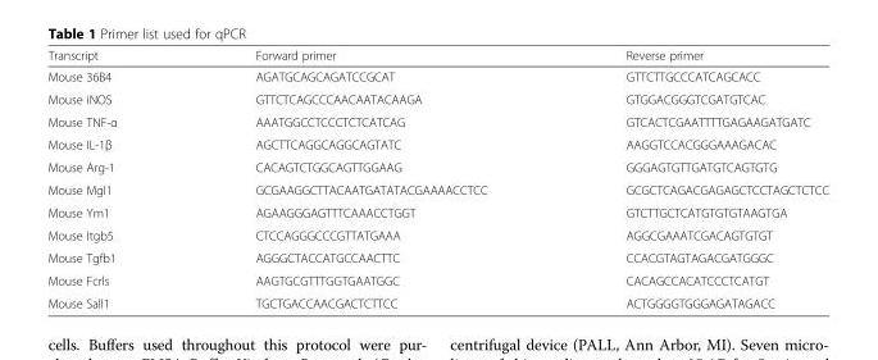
<table><thead><tr><td>Transcript</td><td>Forward primer</td><td>Reverse primer</td></tr></thead><tbody><tr><td>Mouse 36B4</td><td>AGATGCAGCAGATCCGCAT</td><td>GTTCTTGCCCATCAGCACC</td></tr><tr><td>Mouse iNOS</td><td>GTTCTCAGCCCAACAATACAAGA</td><td>GTGGACGGGTCGATGTCAC</td></tr><tr><td>Mouse TNF-α</td><td>AAATGGCCTCCCTCTCATCAG</td><td>GTCACTCGAATTTTGAGAAGATGATC</td></tr><tr><td>Mouse IL-1β</td><td>AGCTTCAGGCAGGCAGTATC</td><td>AAGGTCCACGGGAAAGACAC</td></tr><tr><td>Mouse Arg-1</td><td>CACAGTCTGGCAGTTGGAAG</td><td>GGGAGTGTTGATGTCAGTGTG</td></tr><tr><td>Mouse Mgl1</td><td>GCGAAGGCTTACAATGATATACGAAAACCTCC</td><td>GCGCTCAGACGAGAGCTCCTAGCTCTCC</td></tr><tr><td>Mouse Ym1</td><td>AGAAGGGAGTTTCAAACCTGGT</td><td>GTCTTGCTCATGTGTGTAAGTGA</td></tr><tr><td>Mouse Itgb5</td><td>CTCCAGGGCCCGTTATGAAA</td><td>AGGCGAAATCGACAGTGTGT</td></tr><tr><td>Mouse Tgfb1</td><td>AGGGCTACCATGCCAACTTC</td><td>CCACGTAGTAGACGATGGGC</td></tr><tr><td>Mouse Fcrls</td><td>AAGTGCGTTTGGTGAATGGC</td><td>CACAGCCACATCCCTCATGT</td></tr><tr><td>Mouse Sall1</td><td>TGCTGACCAACGACTCTTCC</td><td>ACTGGGGTGGGAGATAGACC</td></tr></tbody></table>